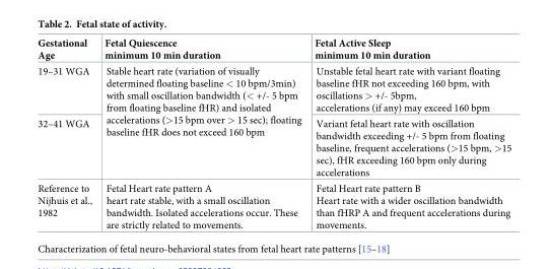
<table><thead><tr><td>Gestational Age</td><td>Fetal Quiescence minimum 10 min duration</td><td>Fetal Active Sleep minimum 10 min duration</td></tr></thead><tbody><tr><td>19–31 WGA</td><td rowspan="2">Stable heart rate (variation of visually determined floating baseline &lt; 10 bpm/3min) with small oscillation bandwidth (&lt; +/- 5 bpm from floating baseline fHR) and isolated accelerations (&gt;15 bpm over &gt; 15 sec); floating baseline fHR does not exceed 160 bpm</td><td>Unstable fetal heart rate with variant floating baseline fHR not exceeding 160 bpm, with oscillations &gt; +/- 5bpm, accelerations (if any) may exceed 160 bpm</td></tr><tr><td>32–41 WGA</td><td>Variant fetal heart rate with oscillation bandwidth exceeding +/- 5 bpm from floating baseline, frequent accelerations (&gt;15 bpm, &gt;15 sec), fHR exceeding 160 bpm only during accelerations</td></tr><tr><td>Reference to Nijhuis et al., 1982</td><td>Fetal Heart rate pattern A heart rate stable, with a small oscillation bandwidth. Isolated accelerations occur. These are strictly related to movements.</td><td>Fetal Heart rate pattern B Heart rate with a wider oscillation bandwidth than fHRP A and frequent accelerations during movements.</td></tr></tbody></table>